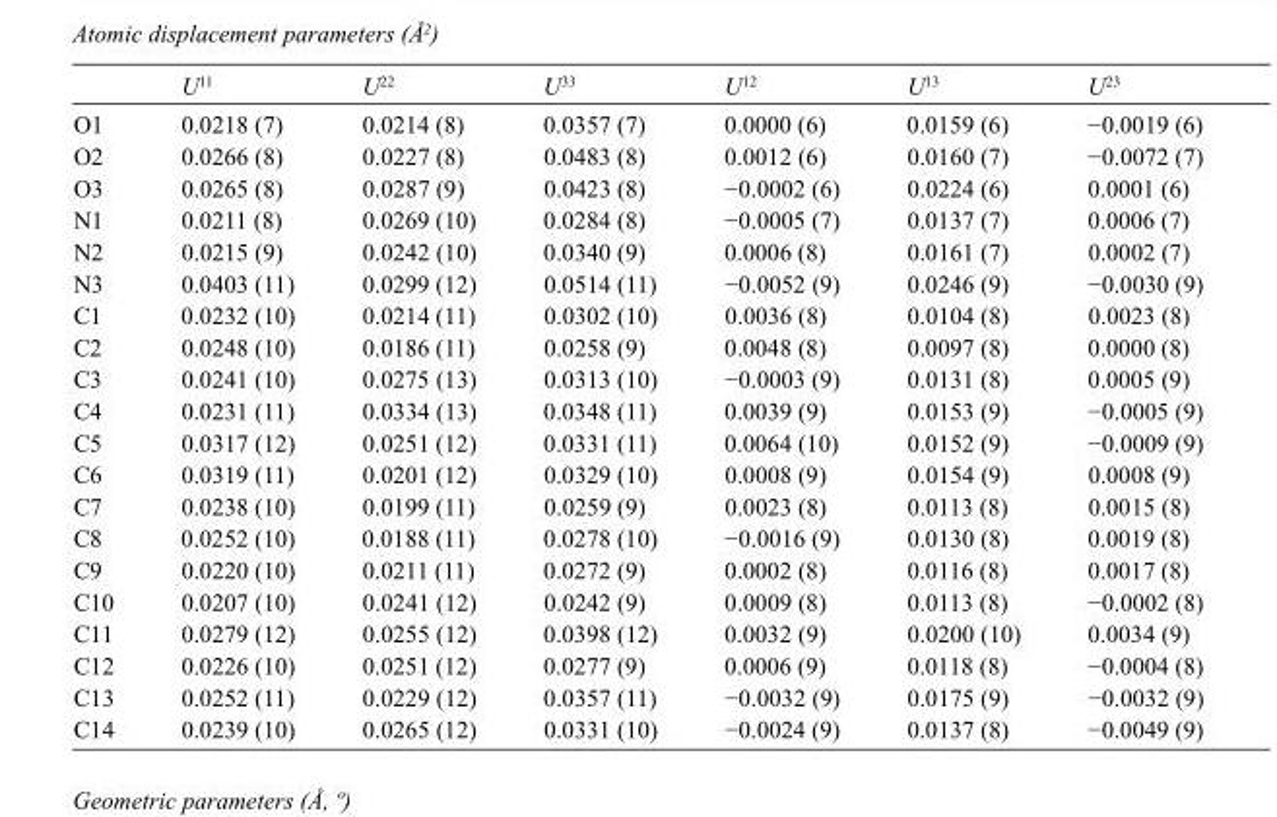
<table><thead><tr><td></td><td>U<sup>11</sup></td><td>U<sup>22</sup></td><td>U<sup>33</sup></td><td>U<sup>12</sup></td><td>U<sup>13</sup></td><td>U<sup>23</sup></td></tr></thead><tbody><tr><td>O1</td><td>0.0218 (7)</td><td>0.0214 (8)</td><td>0.0357 (7)</td><td>0.0000 (6)</td><td>0.0159 (6)</td><td>−0.0019 (6)</td></tr><tr><td>O2</td><td>0.0266 (8)</td><td>0.0227 (8)</td><td>0.0483 (8)</td><td>0.0012 (6)</td><td>0.0160 (7)</td><td>−0.0072 (7)</td></tr><tr><td>O3</td><td>0.0265 (8)</td><td>0.0287 (9)</td><td>0.0423 (8)</td><td>−0.0002 (6)</td><td>0.0224 (6)</td><td>0.0001 (6)</td></tr><tr><td>N1</td><td>0.0211 (8)</td><td>0.0269 (10)</td><td>0.0284 (8)</td><td>−0.0005 (7)</td><td>0.0137 (7)</td><td>0.0006 (7)</td></tr><tr><td>N2</td><td>0.0215 (9)</td><td>0.0242 (10)</td><td>0.0340 (9)</td><td>0.0006 (8)</td><td>0.0161 (7)</td><td>0.0002 (7)</td></tr><tr><td>N3</td><td>0.0403 (11)</td><td>0.0299 (12)</td><td>0.0514 (11)</td><td>−0.0052 (9)</td><td>0.0246 (9)</td><td>−0.0030 (9)</td></tr><tr><td>C1</td><td>0.0232 (10)</td><td>0.0214 (11)</td><td>0.0302 (10)</td><td>0.0036 (8)</td><td>0.0104 (8)</td><td>0.0023 (8)</td></tr><tr><td>C2</td><td>0.0248 (10)</td><td>0.0186 (11)</td><td>0.0258 (9)</td><td>0.0048 (8)</td><td>0.0097 (8)</td><td>0.0000 (8)</td></tr><tr><td>C3</td><td>0.0241 (10)</td><td>0.0275 (13)</td><td>0.0313 (10)</td><td>−0.0003 (9)</td><td>0.0131 (8)</td><td>0.0005 (9)</td></tr><tr><td>C4</td><td>0.0231 (11)</td><td>0.0334 (13)</td><td>0.0348 (11)</td><td>0.0039 (9)</td><td>0.0153 (9)</td><td>−0.0005 (9)</td></tr><tr><td>C5</td><td>0.0317 (12)</td><td>0.0251 (12)</td><td>0.0331 (11)</td><td>0.0064 (10)</td><td>0.0152 (9)</td><td>−0.0009 (9)</td></tr><tr><td>C6</td><td>0.0319 (11)</td><td>0.0201 (12)</td><td>0.0329 (10)</td><td>0.0008 (9)</td><td>0.0154 (9)</td><td>0.0008 (9)</td></tr><tr><td>C7</td><td>0.0238 (10)</td><td>0.0199 (11)</td><td>0.0259 (9)</td><td>0.0023 (8)</td><td>0.0113 (8)</td><td>0.0015 (8)</td></tr><tr><td>C8</td><td>0.0252 (10)</td><td>0.0188 (11)</td><td>0.0278 (10)</td><td>−0.0016 (9)</td><td>0.0130 (8)</td><td>0.0019 (8)</td></tr><tr><td>C9</td><td>0.0220 (10)</td><td>0.0211 (11)</td><td>0.0272 (9)</td><td>0.0002 (8)</td><td>0.0116 (8)</td><td>0.0017 (8)</td></tr><tr><td>C10</td><td>0.0207 (10)</td><td>0.0241 (12)</td><td>0.0242 (9)</td><td>0.0009 (8)</td><td>0.0113 (8)</td><td>−0.0002 (8)</td></tr><tr><td>C11</td><td>0.0279 (12)</td><td>0.0255 (12)</td><td>0.0398 (12)</td><td>0.0032 (9)</td><td>0.0200 (10)</td><td>0.0034 (9)</td></tr><tr><td>C12</td><td>0.0226 (10)</td><td>0.0251 (12)</td><td>0.0277 (9)</td><td>0.0006 (9)</td><td>0.0118 (8)</td><td>−0.0004 (8)</td></tr><tr><td>C13</td><td>0.0252 (11)</td><td>0.0229 (12)</td><td>0.0357 (11)</td><td>−0.0032 (9)</td><td>0.0175 (9)</td><td>−0.0032 (9)</td></tr><tr><td>C14</td><td>0.0239 (10)</td><td>0.0265 (12)</td><td>0.0331 (10)</td><td>−0.0024 (9)</td><td>0.0137 (8)</td><td>−0.0049 (9)</td></tr></tbody></table>